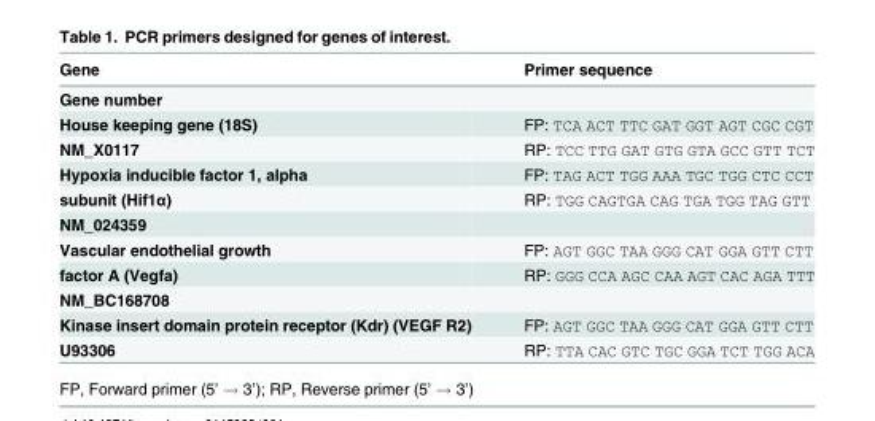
<table><thead><tr><td>Gene</td><td>Primer sequence</td></tr></thead><tbody><tr><td colspan="2">Gene number</td></tr><tr><td>House keeping gene (18S)</td><td>FP: TCA ACT TTC GAT GGT AGT CGC CGT</td></tr><tr><td>NM_X0117</td><td>RP: TCC TTG GAT GTG GTA GCC GTT TCT</td></tr><tr><td>Hypoxia inducible factor 1, alpha</td><td>FP: TAG ACT TGG AAA TGC TGG CTC CCT</td></tr><tr><td>subunit (Hif1α)</td><td>RP: TGG CAGTGA CAG TGA TGG TAG GTT</td></tr><tr><td colspan="2">NM_024359</td></tr><tr><td>Vascular endothelial growth</td><td>FP: AGT GGC TAA GGG CAT GGA GTT CTT</td></tr><tr><td>factor A (Vegfa)</td><td>RP: GGG CCA AGC CAA AGT CAC AGA TTT</td></tr><tr><td colspan="2">NM_BC168708</td></tr><tr><td>Kinase insert domain protein receptor (Kdr) (VEGF R2)</td><td>FP: AGT GGC TAA GGG CAT GGA GTT CTT</td></tr><tr><td>U93306</td><td>RP: TTA CAC GTC TGC GGA TCT TGG ACA</td></tr></tbody></table>